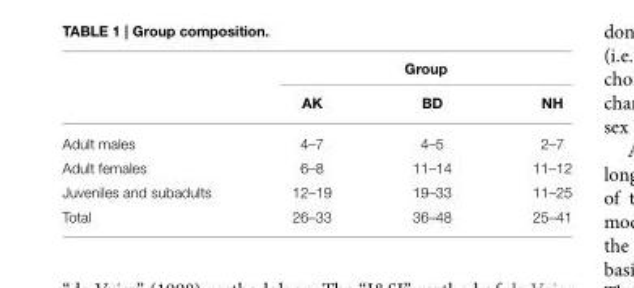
<table><thead><tr><td rowspan="2"></td><td colspan="3">Group</td></tr><tr><td>AK</td><td>BD</td><td>NH</td></tr></thead><tbody><tr><td>Adult males</td><td>4–7</td><td>4–5</td><td>2–7</td></tr><tr><td>Adult females</td><td>6–8</td><td>11–14</td><td>11–12</td></tr><tr><td>Juveniles and subadults</td><td>12–19</td><td>19–33</td><td>11–25</td></tr><tr><td>Total</td><td>26–33</td><td>36–48</td><td>25–41</td></tr></tbody></table>